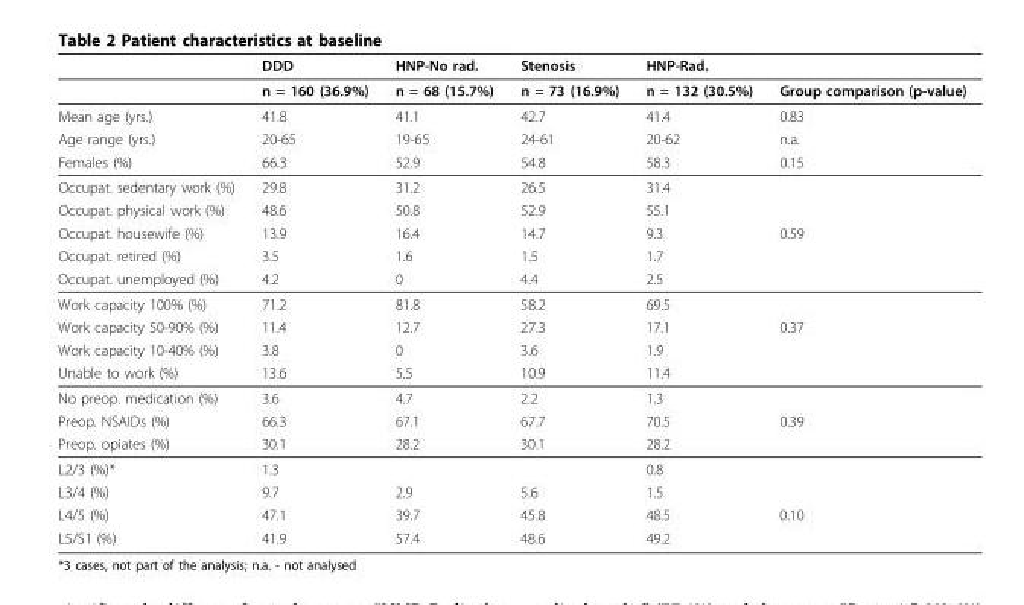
<table><thead><tr><td></td><td>DDD</td><td>HNP-No rad.</td><td>Stenosis</td><td>HNP-Rad.</td><td></td></tr></thead><tbody><tr><td></td><td>n = 160 (36.9%)</td><td>n = 68 (15.7%)</td><td>n = 73 (16.9%)</td><td>n = 132 (30.5%)</td><td>Group comparison (p-value)</td></tr><tr><td>Mean age (yrs.)</td><td>41.8</td><td>41.1</td><td>42.7</td><td>41.4</td><td>0.83</td></tr><tr><td>Age range (yrs.)</td><td>20-65</td><td>19-65</td><td>24-61</td><td>20-62</td><td>n.a.</td></tr><tr><td>Females (%)</td><td>66.3</td><td>52.9</td><td>54.8</td><td>58.3</td><td>0.15</td></tr><tr><td>Occupat. sedentary work (%)</td><td>29.8</td><td>31.2</td><td>26.5</td><td>31.4</td><td></td></tr><tr><td>Occupat. physical work (%)</td><td>48.6</td><td>50.8</td><td>52.9</td><td>55.1</td><td></td></tr><tr><td>Occupat. housewife (%)</td><td>13.9</td><td>16.4</td><td>14.7</td><td>9.3</td><td>0.59</td></tr><tr><td>Occupat. retired (%)</td><td>3.5</td><td>1.6</td><td>1.5</td><td>1.7</td><td></td></tr><tr><td>Occupat. unemployed (%)</td><td>4.2</td><td>0</td><td>4.4</td><td>2.5</td><td></td></tr><tr><td>Work capacity 100% (%)</td><td>71.2</td><td>81.8</td><td>58.2</td><td>69.5</td><td></td></tr><tr><td>Work capacity 50-90% (%)</td><td>11.4</td><td>12.7</td><td>27.3</td><td>17.1</td><td>0.37</td></tr><tr><td>Work capacity 10-40% (%)</td><td>3.8</td><td>0</td><td>3.6</td><td>1.9</td><td></td></tr><tr><td>Unable to work (%)</td><td>13.6</td><td>5.5</td><td>10.9</td><td>11.4</td><td></td></tr><tr><td>No preop. medication (%)</td><td>3.6</td><td>4.7</td><td>2.2</td><td>1.3</td><td></td></tr><tr><td>Preop. NSAIDs (%)</td><td>66.3</td><td>67.1</td><td>67.7</td><td>70.5</td><td>0.39</td></tr><tr><td>Preop. opiates (%)</td><td>30.1</td><td>28.2</td><td>30.1</td><td>28.2</td><td></td></tr><tr><td>L2/3 (%)*</td><td>1.3</td><td></td><td></td><td>0.8</td><td></td></tr><tr><td>L3/4 (%)</td><td>9.7</td><td>2.9</td><td>5.6</td><td>1.5</td><td></td></tr><tr><td>L4/5 (%)</td><td>47.1</td><td>39.7</td><td>45.8</td><td>48.5</td><td>0.10</td></tr><tr><td>L5/S1 (%)</td><td>41.9</td><td>57.4</td><td>48.6</td><td>49.2</td><td></td></tr></tbody></table>